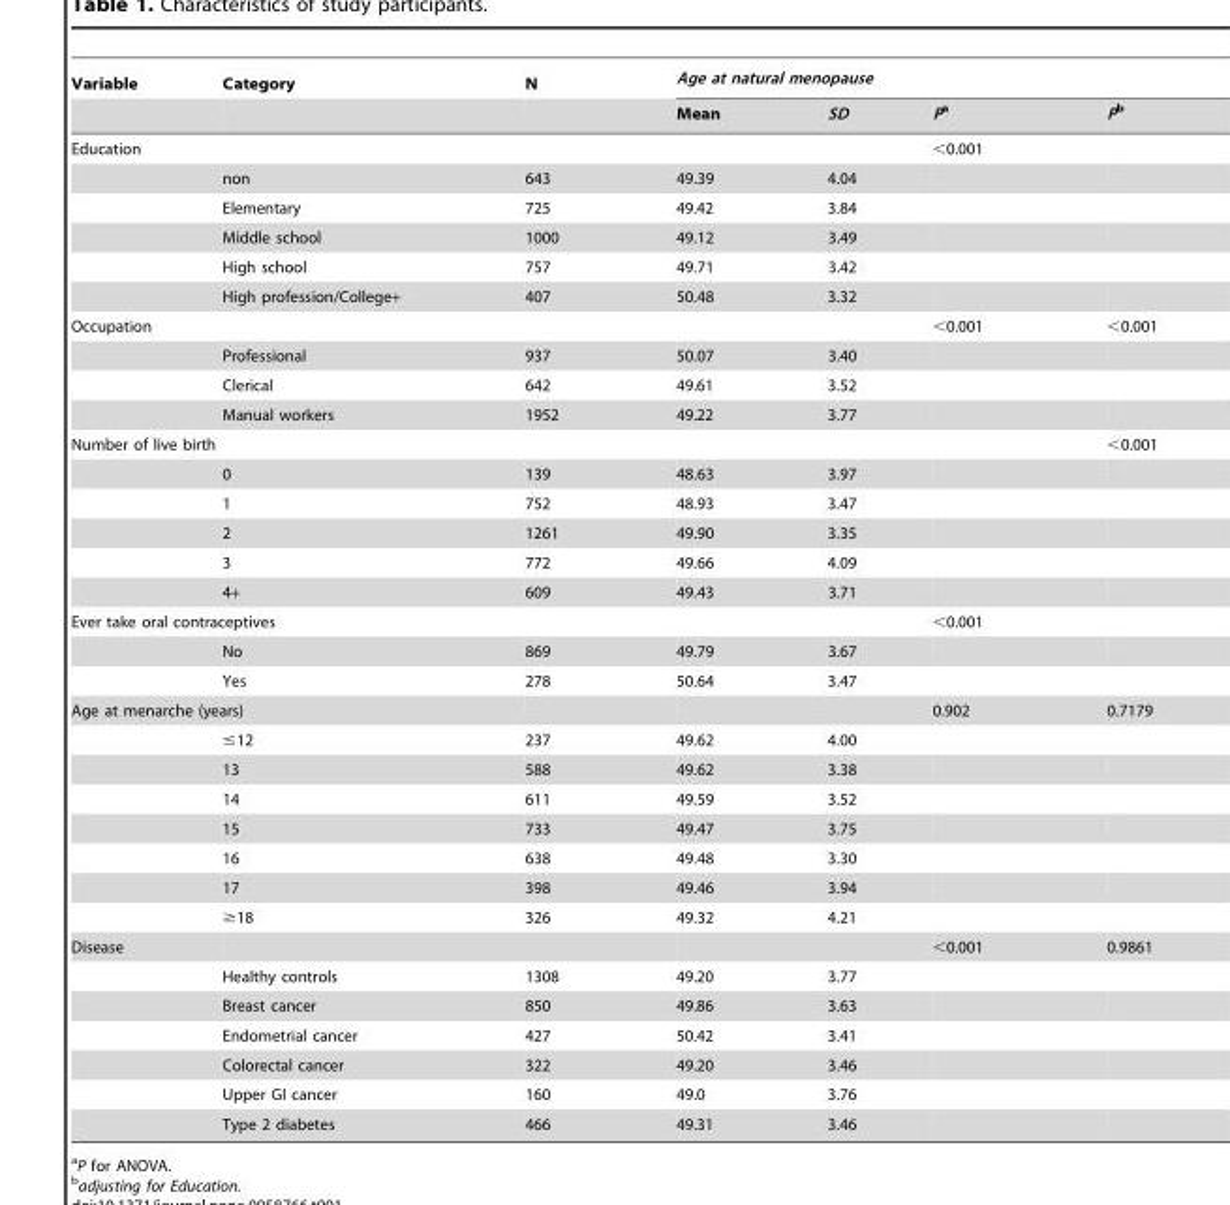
<table><thead><tr><td rowspan="2">Variable</td><td rowspan="2">Category</td><td rowspan="2">N</td><td colspan="4">Age at natural menopause</td></tr><tr><td>Mean</td><td>SD</td><td>Pa</td><td>Pb</td></tr></thead><tbody><tr><td rowspan="6">Education</td><td></td><td></td><td></td><td></td><td>&lt;0.001</td><td></td></tr><tr><td>non</td><td>643</td><td>49.39</td><td>4.04</td><td></td><td></td></tr><tr><td>Elementary</td><td>725</td><td>49.42</td><td>3.84</td><td></td><td></td></tr><tr><td>Middle school</td><td>1000</td><td>49.12</td><td>3.49</td><td></td><td></td></tr><tr><td>High school</td><td>757</td><td>49.71</td><td>3.42</td><td></td><td></td></tr><tr><td>High profession/College+</td><td>407</td><td>50.48</td><td>3.32</td><td></td><td></td></tr><tr><td rowspan="4">Occupation</td><td></td><td></td><td></td><td></td><td>&lt;0.001</td><td>&lt;0.001</td></tr><tr><td>Professional</td><td>937</td><td>50.07</td><td>3.40</td><td></td><td></td></tr><tr><td>Clerical</td><td>642</td><td>49.61</td><td>3.52</td><td></td><td></td></tr><tr><td>Manual workers</td><td>1952</td><td>49.22</td><td>3.77</td><td></td><td></td></tr><tr><td colspan="2">Number of live birth</td><td></td><td></td><td></td><td></td><td>&lt;0.001</td></tr><tr><td></td><td>0</td><td>139</td><td>48.63</td><td>3.97</td><td></td><td></td></tr><tr><td></td><td>1</td><td>752</td><td>48.93</td><td>3.47</td><td></td><td></td></tr><tr><td></td><td>2</td><td>1261</td><td>49.90</td><td>3.35</td><td></td><td></td></tr><tr><td></td><td>3</td><td>772</td><td>49.66</td><td>4.09</td><td></td><td></td></tr><tr><td></td><td>4+</td><td>609</td><td>49.43</td><td>3.71</td><td></td><td></td></tr><tr><td colspan="2">Ever take oral contraceptives</td><td></td><td></td><td></td><td>&lt;0.001</td><td></td></tr><tr><td></td><td>No</td><td>869</td><td>49.79</td><td>3.67</td><td></td><td></td></tr><tr><td></td><td>Yes</td><td>278</td><td>50.64</td><td>3.47</td><td></td><td></td></tr><tr><td colspan="2">Age at menarche (years)</td><td></td><td></td><td></td><td>0.902</td><td>0.7179</td></tr><tr><td></td><td>≤12</td><td>237</td><td>49.62</td><td>4.00</td><td></td><td></td></tr><tr><td></td><td>13</td><td>588</td><td>49.62</td><td>3.38</td><td></td><td></td></tr><tr><td></td><td>14</td><td>611</td><td>49.59</td><td>3.52</td><td></td><td></td></tr><tr><td></td><td>15</td><td>733</td><td>49.47</td><td>3.75</td><td></td><td></td></tr><tr><td></td><td>16</td><td>638</td><td>49.48</td><td>3.30</td><td></td><td></td></tr><tr><td></td><td>17</td><td>398</td><td>49.46</td><td>3.94</td><td></td><td></td></tr><tr><td></td><td>≥18</td><td>326</td><td>49.32</td><td>4.21</td><td></td><td></td></tr><tr><td rowspan="7">Disease</td><td colspan="2"></td><td></td><td></td><td>&lt;0.001</td><td>0.9861</td></tr><tr><td>Healthy controls</td><td>1308</td><td>49.20</td><td>3.77</td><td></td><td></td></tr><tr><td>Breast cancer</td><td>850</td><td>49.86</td><td>3.63</td><td></td><td></td></tr><tr><td>Endometrial cancer</td><td>427</td><td>50.42</td><td>3.41</td><td></td><td></td></tr><tr><td>Colorectal cancer</td><td>322</td><td>49.20</td><td>3.46</td><td></td><td></td></tr><tr><td>Upper GI cancer</td><td>160</td><td>49.0</td><td>3.76</td><td></td><td></td></tr><tr><td>Type 2 diabetes</td><td>466</td><td>49.31</td><td>3.46</td><td></td><td></td></tr></tbody></table>